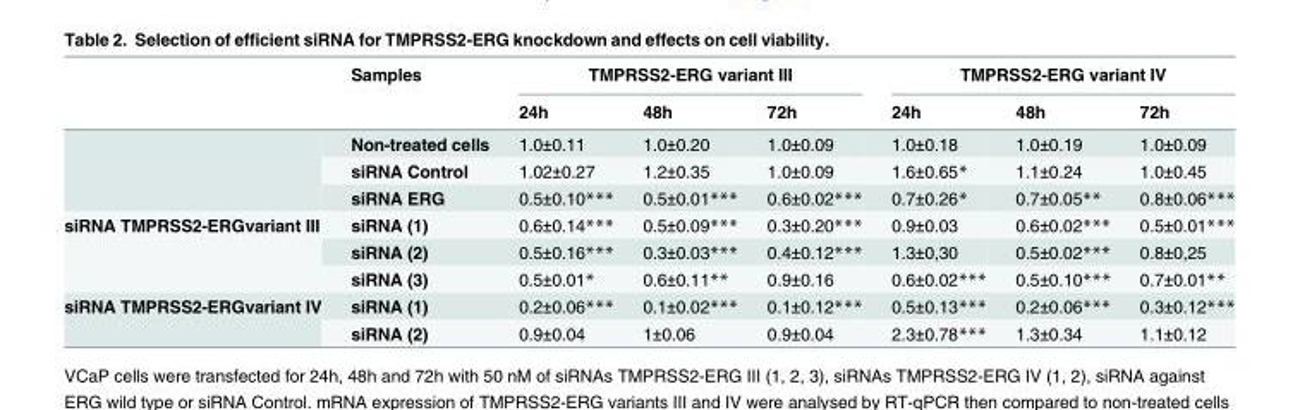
<table><thead><tr><td rowspan="2"></td><td rowspan="2">Samples</td><td colspan="3">TMPRSS2-ERG variant III</td><td colspan="3">TMPRSS2-ERG variant IV</td></tr><tr><td>24h</td><td>48h</td><td>72h</td><td>24h</td><td>48h</td><td>72h</td></tr></thead><tbody><tr><td rowspan="3"></td><td>Non-treated cells</td><td>1.0±0.11</td><td>1.0±0.20</td><td>1.0±0.09</td><td>1.0±0.18</td><td>1.0±0.19</td><td>1.0±0.09</td></tr><tr><td>siRNA Control</td><td>1.02±0.27</td><td>1.2±0.35</td><td>1.0±0.09</td><td>1.6±0.65*</td><td>1.1±0.24</td><td>1.0±0.45</td></tr><tr><td>siRNA ERG</td><td>0.5±0.10***</td><td>0.5±0.01***</td><td>0.6±0.02***</td><td>0.7±0.26*</td><td>0.7±0.05**</td><td>0.8±0.06***</td></tr><tr><td rowspan="3">siRNA TMPRSS2-ERGvariant III</td><td>siRNA (1)</td><td>0.6±0.14***</td><td>0.5±0.09***</td><td>0.3±0.20***</td><td>0.9±0.03</td><td>0.6±0.02***</td><td>0.5±0.01***</td></tr><tr><td>siRNA (2)</td><td>0.5±0.16***</td><td>0.3±0.03***</td><td>0.4±0.12***</td><td>1.3±0,30</td><td>0.5±0.02***</td><td>0.8±0,25</td></tr><tr><td>siRNA (3)</td><td>0.5±0.01*</td><td>0.6±0.11**</td><td>0.9±0.16</td><td>0.6±0.02***</td><td>0.5±0.10***</td><td>0.7±0.01**</td></tr><tr><td rowspan="2">siRNA TMPRSS2-ERGvariant IV</td><td>siRNA (1)</td><td>0.2±0.06***</td><td>0.1±0.02***</td><td>0.1±0.12***</td><td>0.5±0.13***</td><td>0.2±0.06***</td><td>0.3±0.12***</td></tr><tr><td>siRNA (2)</td><td>0.9±0.04</td><td>1±0.06</td><td>0.9±0.04</td><td>2.3±0.78***</td><td>1.3±0.34</td><td>1.1±0.12</td></tr></tbody></table>